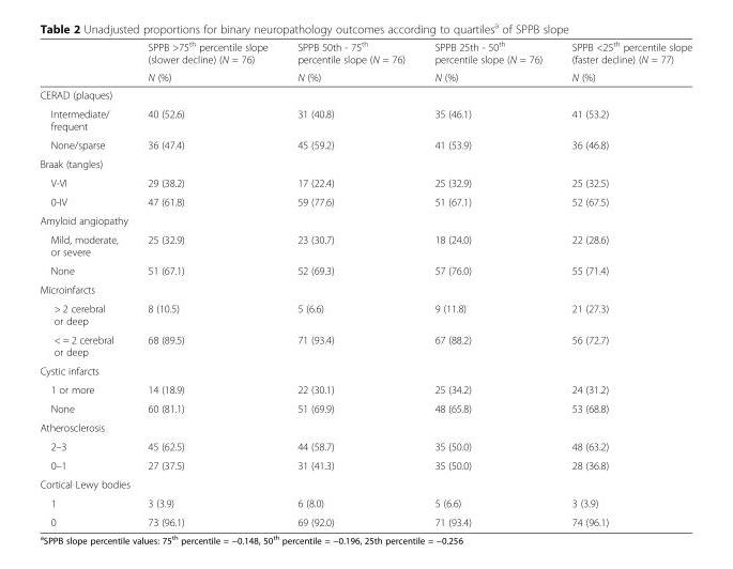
<table><thead><tr><td rowspan="2"></td><td rowspan="2">SPPB &gt;75<sup>th</sup> percentile slope (slower decline) (N = 76) N (%)</td><td rowspan="2">SPPB 50th - 75<sup>th</sup> percentile slope (N = 76) N (%)</td><td rowspan="2">SPPB 25th - 50<sup>th</sup> percentile slope (N = 76) N (%)</td><td rowspan="2">SPPB &lt;25<sup>th</sup> percentile slope (faster decline) (N = 77) N (%)</td></tr><tr></tr></thead><tbody><tr><td colspan="5">CERAD (plaques)</td></tr><tr><td>Intermediate/ frequent</td><td>40 (52.6)</td><td>31 (40.8)</td><td>35 (46.1)</td><td>41 (53.2)</td></tr><tr><td>None/sparse</td><td>36 (47.4)</td><td>45 (59.2)</td><td>41 (53.9)</td><td>36 (46.8)</td></tr><tr><td colspan="5">Braak (tangles)</td></tr><tr><td>V-VI</td><td>29 (38.2)</td><td>17 (22.4)</td><td>25 (32.9)</td><td>25 (32.5)</td></tr><tr><td>0-IV</td><td>47 (61.8)</td><td>59 (77.6)</td><td>51 (67.1)</td><td>52 (67.5)</td></tr><tr><td colspan="5">Amyloid angiopathy</td></tr><tr><td>Mild, moderate, or severe</td><td>25 (32.9)</td><td>23 (30.7)</td><td>18 (24.0)</td><td>22 (28.6)</td></tr><tr><td>None</td><td>51 (67.1)</td><td>52 (69.3)</td><td>57 (76.0)</td><td>55 (71.4)</td></tr><tr><td colspan="5">Microinfarcts</td></tr><tr><td>&gt; 2 cerebral or deep</td><td>8 (10.5)</td><td>5 (6.6)</td><td>9 (11.8)</td><td>21 (27.3)</td></tr><tr><td>&lt; = 2 cerebral or deep</td><td>68 (89.5)</td><td>71 (93.4)</td><td>67 (88.2)</td><td>56 (72.7)</td></tr><tr><td colspan="5">Cystic infarcts</td></tr><tr><td>1 or more</td><td>14 (18.9)</td><td>22 (30.1)</td><td>25 (34.2)</td><td>24 (31.2)</td></tr><tr><td>None</td><td>60 (81.1)</td><td>51 (69.9)</td><td>48 (65.8)</td><td>53 (68.8)</td></tr><tr><td colspan="5">Atherosclerosis</td></tr><tr><td>2–3</td><td>45 (62.5)</td><td>44 (58.7)</td><td>35 (50.0)</td><td>48 (63.2)</td></tr><tr><td>0–1</td><td>27 (37.5)</td><td>31 (41.3)</td><td>35 (50.0)</td><td>28 (36.8)</td></tr><tr><td colspan="5">Cortical Lewy bodies</td></tr><tr><td>1</td><td>3 (3.9)</td><td>6 (8.0)</td><td>5 (6.6)</td><td>3 (3.9)</td></tr><tr><td>0</td><td>73 (96.1)</td><td>69 (92.0)</td><td>71 (93.4)</td><td>74 (96.1)</td></tr></tbody></table>